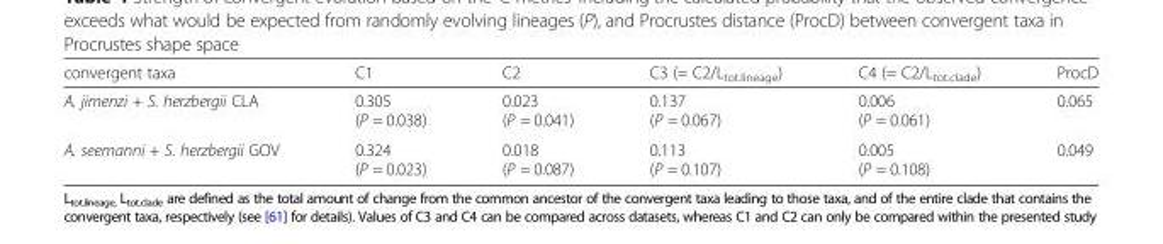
<table><thead><tr><td>convergent taxa</td><td>C1</td><td>C2</td><td>C3 (= C2/L<sub>tot.lineage</sub>)</td><td>C4 (= C2/L<sub>tot.clade</sub>)</td><td>ProcD</td></tr></thead><tbody><tr><td>A. jimenzi + S. herzbergii CLA</td><td>0.305 (P = 0.038)</td><td>0.023 (P = 0.041)</td><td>0.137 (P = 0.067)</td><td>0.006 (P = 0.061)</td><td>0.065</td></tr><tr><td>A. seemanni + S. herzbergii GOV</td><td>0.324 (P = 0.023)</td><td>0.018 (P = 0.087)</td><td>0.113 (P = 0.107)</td><td>0.005 (P = 0.108)</td><td>0.049</td></tr></tbody></table>